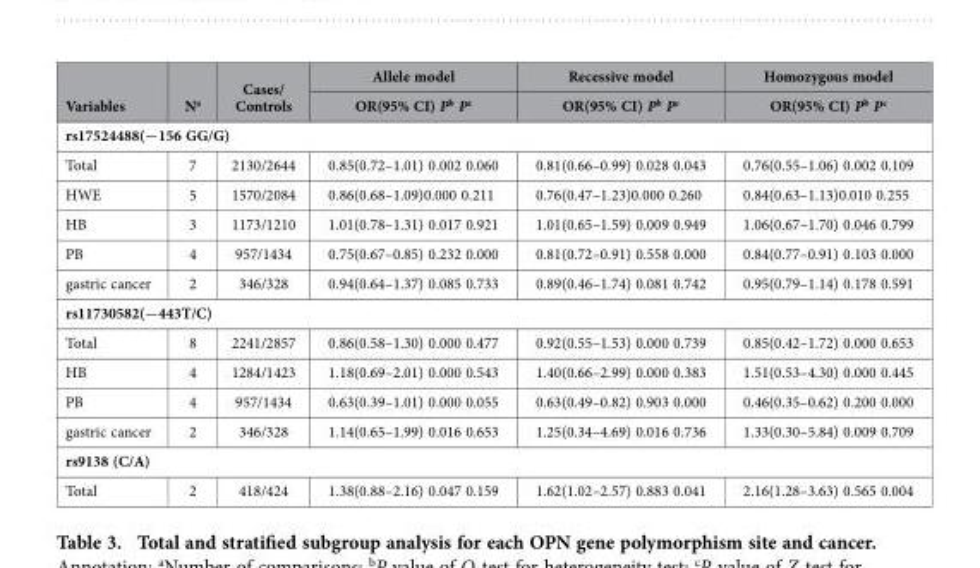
<table><thead><tr><td rowspan="2">Variables</td><td rowspan="2">N<sup>a</sup></td><td rowspan="2">Cases/ Controls</td><td rowspan="2">Allele model OR(95% CI) P<sup>b</sup> P<sup>c</sup></td><td rowspan="2">Recessive model OR(95% CI) P<sup>b</sup> P<sup>c</sup></td><td rowspan="2">Homozygous model OR(95% CI) P<sup>b</sup> P<sup>c</sup></td></tr><tr></tr></thead><tbody><tr><td colspan="6">rs17524488(−156 GG/G)</td></tr><tr><td>Total</td><td>7</td><td>2130/2644</td><td>0.85(0.72–1.01) 0.002 0.060</td><td>0.81(0.66–0.99) 0.028 0.043</td><td>0.76(0.55–1.06) 0.002 0.109</td></tr><tr><td>HWE</td><td>5</td><td>1570/2084</td><td>0.86(0.68–1.09)0.000 0.211</td><td>0.76(0.47–1.23)0.000 0.260</td><td>0.84(0.63–1.13)0.010 0.255</td></tr><tr><td>HB</td><td>3</td><td>1173/1210</td><td>1.01(0.78–1.31) 0.017 0.921</td><td>1.01(0.65–1.59) 0.009 0.949</td><td>1.06(0.67–1.70) 0.046 0.799</td></tr><tr><td>PB</td><td>4</td><td>957/1434</td><td>0.75(0.67–0.85) 0.232 0.000</td><td>0.81(0.72–0.91) 0.558 0.000</td><td>0.84(0.77–0.91) 0.103 0.000</td></tr><tr><td>gastric cancer</td><td>2</td><td>346/328</td><td>0.94(0.64–1.37) 0.085 0.733</td><td>0.89(0.46–1.74) 0.081 0.742</td><td>0.95(0.79–1.14) 0.178 0.591</td></tr><tr><td colspan="6">rs11730582(−443T/C)</td></tr><tr><td>Total</td><td>8</td><td>2241/2857</td><td>0.86(0.58–1.30) 0.000 0.477</td><td>0.92(0.55–1.53) 0.000 0.739</td><td>0.85(0.42–1.72) 0.000 0.653</td></tr><tr><td>HB</td><td>4</td><td>1284/1423</td><td>1.18(0.69–2.01) 0.000 0.543</td><td>1.40(0.66–2.99) 0.000 0.383</td><td>1.51(0.53–4.30) 0.000 0.445</td></tr><tr><td>PB</td><td>4</td><td>957/1434</td><td>0.63(0.39–1.01) 0.000 0.055</td><td>0.63(0.49–0.82) 0.903 0.000</td><td>0.46(0.35–0.62) 0.200 0.000</td></tr><tr><td>gastric cancer</td><td>2</td><td>346/328</td><td>1.14(0.65–1.99) 0.016 0.653</td><td>1.25(0.34–4.69) 0.016 0.736</td><td>1.33(0.30–5.84) 0.009 0.709</td></tr><tr><td colspan="6">rs9138 (C/A)</td></tr><tr><td>Total</td><td>2</td><td>418/424</td><td>1.38(0.88–2.16) 0.047 0.159</td><td>1.62(1.02–2.57) 0.883 0.041</td><td>2.16(1.28–3.63) 0.565 0.004</td></tr></tbody></table>